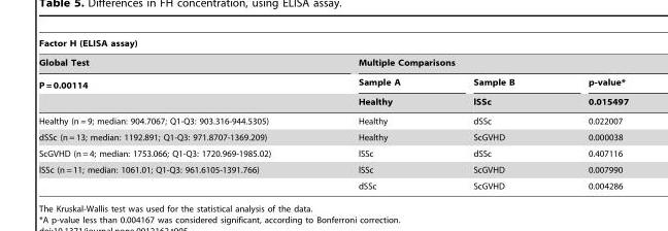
<table><thead><tr><td colspan="4">Factor H (ELISA assay)</td></tr><tr><td rowspan="3">Global Test P = 0.00114</td><td colspan="3">Multiple Comparisons</td></tr><tr><td rowspan="2">Sample A Healthy</td><td rowspan="2">Sample B lSSc</td><td rowspan="2">p-value* 0.015497</td></tr><tr></tr></thead><tbody><tr><td>Healthy (n = 9; median: 904.7067; Q1-Q3: 903.316-944.5305)</td><td>Healthy</td><td>dSSc</td><td>0.022007</td></tr><tr><td>dSSc (n = 13; median: 1192.891; Q1-Q3: 971.8707-1369.209)</td><td>Healthy</td><td>ScGVHD</td><td>0.000038</td></tr><tr><td>ScGVHD (n = 4; median: 1753.066; Q1-Q3: 1720.969-1985.02)</td><td>lSSc</td><td>dSSc</td><td>0.407116</td></tr><tr><td rowspan="2">lSSc (n = 11; median: 1061.01; Q1-Q3: 961.6105-1391.766)</td><td>lSSc</td><td>ScGVHD</td><td>0.007990</td></tr><tr><td>dSSc</td><td>ScGVHD</td><td>0.004286</td></tr></tbody></table>